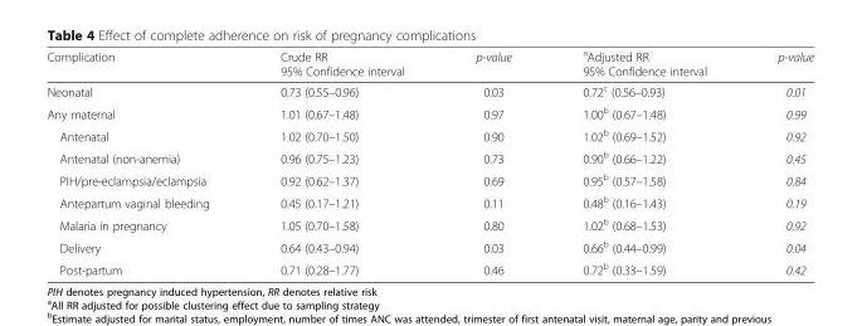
<table><thead><tr><td>Complication</td><td>Crude RR 95% Confidence interval</td><td>p-value</td><td><sup>a</sup>Adjusted RR 95% Confidence interval</td><td>p-value</td></tr></thead><tbody><tr><td>Neonatal</td><td>0.73 (0.55–0.96)</td><td>0.03</td><td>0.72<sup>c</sup> (0.56–0.93)</td><td>0.01</td></tr><tr><td>Any maternal</td><td>1.01 (0.67–1.48)</td><td>0.97</td><td>1.00<sup>b</sup> (0.67–1.48)</td><td>0.99</td></tr><tr><td>Antenatal</td><td>1.02 (0.70–1.50)</td><td>0.90</td><td>1.02<sup>b</sup> (0.69–1.52)</td><td>0.92</td></tr><tr><td>Antenatal (non-anemia)</td><td>0.96 (0.75–1.23)</td><td>0.73</td><td>0.90<sup>b</sup> (0.66–1.22)</td><td>0.45</td></tr><tr><td>PIH/pre-eclampsia/eclampsia</td><td>0.92 (0.62–1.37)</td><td>0.69</td><td>0.95<sup>b</sup> (0.57–1.58)</td><td>0.84</td></tr><tr><td>Antepartum vaginal bleeding</td><td>0.45 (0.17–1.21)</td><td>0.11</td><td>0.48<sup>b</sup> (0.16–1.43)</td><td>0.19</td></tr><tr><td>Malaria in pregnancy</td><td>1.05 (0.70–1.58)</td><td>0.80</td><td>1.02<sup>b</sup> (0.68–1.53)</td><td>0.92</td></tr><tr><td>Delivery</td><td>0.64 (0.43–0.94)</td><td>0.03</td><td>0.66<sup>b</sup> (0.44–0.99)</td><td>0.04</td></tr><tr><td>Post-partum</td><td>0.71 (0.28–1.77)</td><td>0.46</td><td>0.72<sup>b</sup> (0.33–1.59)</td><td>0.42</td></tr></tbody></table>